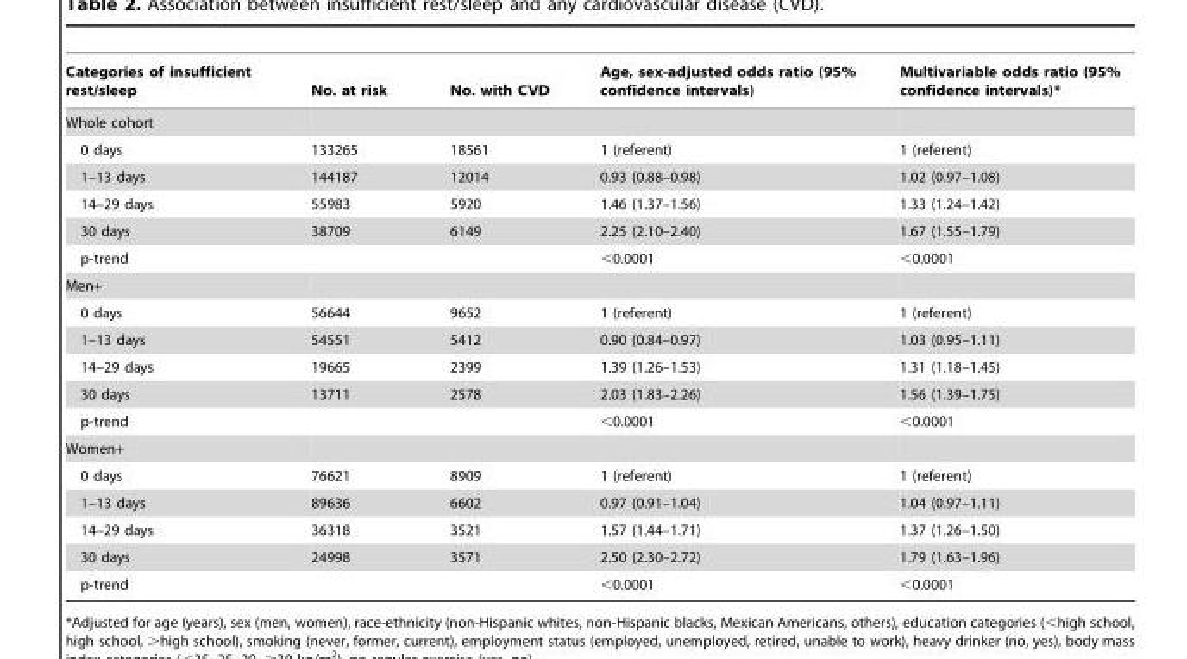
<table><thead><tr><td>Categories of insufficient rest/sleep</td><td>No. at risk</td><td>No. with CVD</td><td>Age, sex-adjusted odds ratio (95% confidence intervals)</td><td>Multivariable odds ratio (95% confidence intervals)*</td></tr></thead><tbody><tr><td colspan="5">Whole cohort</td></tr><tr><td>0 days</td><td>133265</td><td>18561</td><td>1 (referent)</td><td>1 (referent)</td></tr><tr><td>1–13 days</td><td>144187</td><td>12014</td><td>0.93 (0.88–0.98)</td><td>1.02 (0.97–1.08)</td></tr><tr><td>14–29 days</td><td>55983</td><td>5920</td><td>1.46 (1.37–1.56)</td><td>1.33 (1.24–1.42)</td></tr><tr><td>30 days</td><td>38709</td><td>6149</td><td>2.25 (2.10–2.40)</td><td>1.67 (1.55–1.79)</td></tr><tr><td>p-trend</td><td></td><td></td><td>&lt;0.0001</td><td>&lt;0.0001</td></tr><tr><td colspan="5">Men+</td></tr><tr><td>0 days</td><td>56644</td><td>9652</td><td>1 (referent)</td><td>1 (referent)</td></tr><tr><td>1–13 days</td><td>54551</td><td>5412</td><td>0.90 (0.84–0.97)</td><td>1.03 (0.95–1.11)</td></tr><tr><td>14–29 days</td><td>19665</td><td>2399</td><td>1.39 (1.26–1.53)</td><td>1.31 (1.18–1.45)</td></tr><tr><td>30 days</td><td>13711</td><td>2578</td><td>2.03 (1.83–2.26)</td><td>1.56 (1.39–1.75)</td></tr><tr><td>p-trend</td><td></td><td></td><td>&lt;0.0001</td><td>&lt;0.0001</td></tr><tr><td colspan="5">Women+</td></tr><tr><td>0 days</td><td>76621</td><td>8909</td><td>1 (referent)</td><td>1 (referent)</td></tr><tr><td>1–13 days</td><td>89636</td><td>6602</td><td>0.97 (0.91–1.04)</td><td>1.04 (0.97–1.11)</td></tr><tr><td>14–29 days</td><td>36318</td><td>3521</td><td>1.57 (1.44–1.71)</td><td>1.37 (1.26–1.50)</td></tr><tr><td>30 days</td><td>24998</td><td>3571</td><td>2.50 (2.30–2.72)</td><td>1.79 (1.63–1.96)</td></tr><tr><td>p-trend</td><td></td><td></td><td>&lt;0.0001</td><td>&lt;0.0001</td></tr></tbody></table>